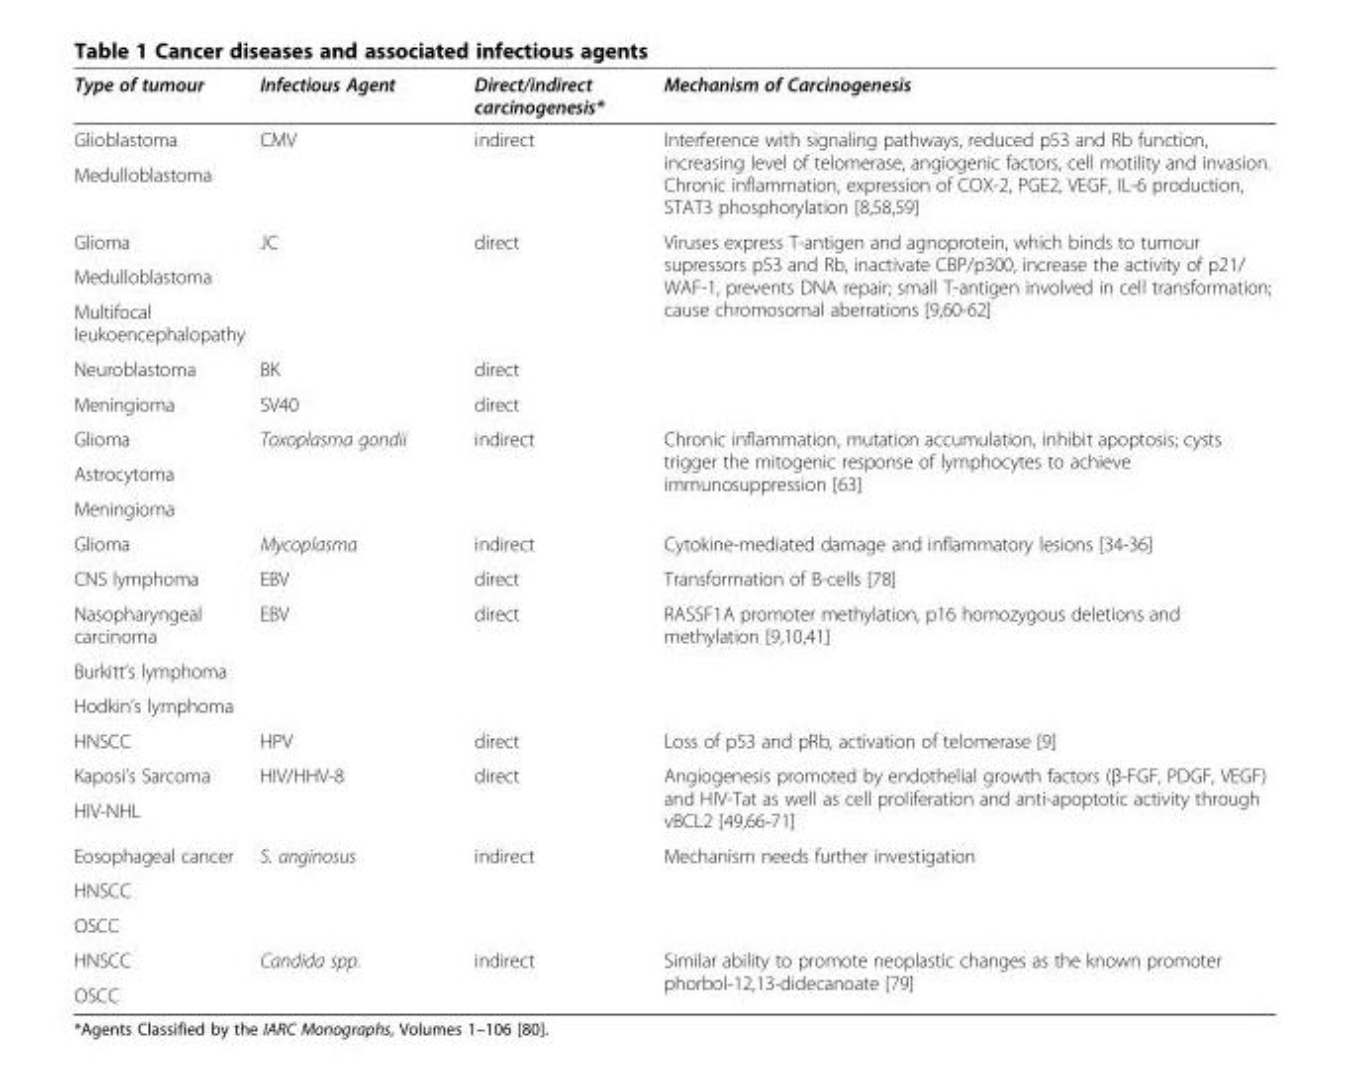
<table><thead><tr><td>Type of tumour</td><td>Infectious Agent</td><td>Direct/indirect carcinogenesis*</td><td>Mechanism of Carcinogenesis</td></tr></thead><tbody><tr><td>Glioblastoma</td><td rowspan="2">CMV</td><td rowspan="2">indirect</td><td rowspan="2">Interference with signaling pathways, reduced p53 and Rb function, increasing level of telomerase, angiogenic factors, cell motility and invasion. Chronic inflammation, expression of COX-2, PGE2, VEGF, IL-6 production, STAT3 phosphorylation [8,58,59]</td></tr><tr><td>Medulloblastoma</td></tr><tr><td>Glioma</td><td rowspan="3">JC</td><td rowspan="3">direct</td><td rowspan="5">Viruses express T-antigen and agnoprotein, which binds to tumour supressors p53 and Rb, inactivate CBP/p300, increase the activity of p21/ WAF-1, prevents DNA repair; small T-antigen involved in cell transformation; cause chromosomal aberrations [9,60-62]</td></tr><tr><td>Medulloblastoma</td></tr><tr><td>Multifocal leukoencephalopathy</td></tr><tr><td>Neuroblastoma</td><td>BK</td><td>direct</td></tr><tr><td>Meningioma</td><td>SV40</td><td>direct</td></tr><tr><td>Glioma</td><td rowspan="3">Toxoplasma gondii</td><td rowspan="3">indirect</td><td rowspan="3">Chronic inflammation, mutation accumulation, inhibit apoptosis; cysts trigger the mitogenic response of lymphocytes to achieve immunosuppression [63]</td></tr><tr><td>Astrocytoma</td></tr><tr><td>Meningioma</td></tr><tr><td>Glioma</td><td>Mycoplasma</td><td>indirect</td><td>Cytokine-mediated damage and inflammatory lesions [34-36]</td></tr><tr><td>CNS lymphoma</td><td>EBV</td><td>direct</td><td>Transformation of B-cells [78]</td></tr><tr><td>Nasopharyngeal carcinoma</td><td rowspan="3">EBV</td><td rowspan="3">direct</td><td rowspan="3">RASSF1A promoter methylation, p16 homozygous deletions and methylation [9,10,41]</td></tr><tr><td>Burkitt’s lymphoma</td></tr><tr><td>Hodkin’s lymphoma</td></tr><tr><td>HNSCC</td><td>HPV</td><td>direct</td><td>Loss of p53 and pRb, activation of telomerase [9]</td></tr><tr><td>Kaposi’s Sarcoma</td><td rowspan="2">HIV/HHV-8</td><td rowspan="2">direct</td><td rowspan="2">Angiogenesis promoted by endothelial growth factors (β-FGF, PDGF, VEGF) and HIV-Tat as well as cell proliferation and anti-apoptotic activity through vBCL2 [49,66-71]</td></tr><tr><td>HIV-NHL</td></tr><tr><td>Eosophageal cancer</td><td rowspan="3">S. anginosus</td><td rowspan="3">indirect</td><td rowspan="3">Mechanism needs further investigation</td></tr><tr><td>HNSCC</td></tr><tr><td>OSCC</td></tr><tr><td>HNSCC</td><td rowspan="2">Candida spp.</td><td rowspan="2">indirect</td><td rowspan="2">Similar ability to promote neoplastic changes as the known promoter phorbol-12,13-didecanoate [79]</td></tr><tr><td>OSCC</td></tr></tbody></table>